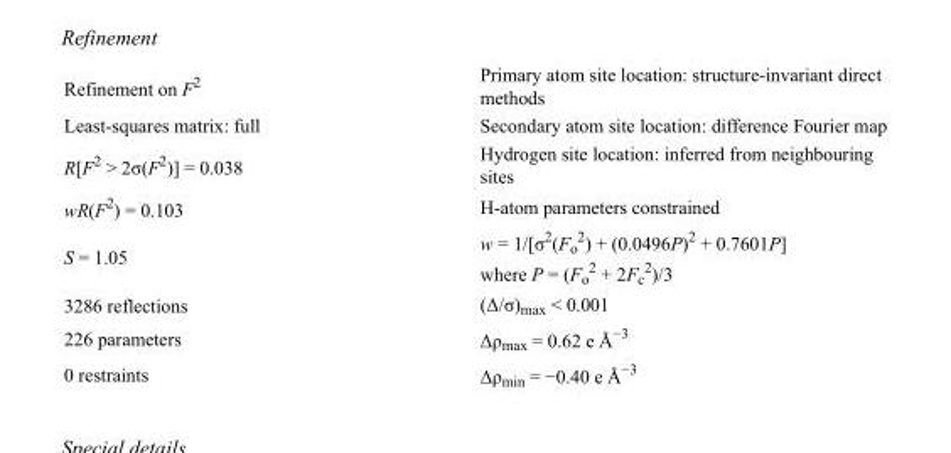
<table><tbody><tr><td>Refinement on F<sup>2</sup></td><td>Primary atom site location: structure-invariant direct methods</td></tr><tr><td>Least-squares matrix: full</td><td>Secondary atom site location: difference Fourier map</td></tr><tr><td>R[F<sup>2</sup> &gt; 2σ(F<sup>2</sup>)] = 0.038</td><td>Hydrogen site location: inferred from neighbouring sites</td></tr><tr><td>wR(F<sup>2</sup>) = 0.103</td><td>H-atom parameters constrained</td></tr><tr><td>S = 1.05</td><td>w = 1/[σ<sup>2</sup>(F<sub>o</sub> <sup>2</sup>) + (0.0496P)<sup>2</sup> + 0.7601P] where P = (F<sub>o</sub> <sup>2</sup> + 2F<sub>c</sub> <sup>2</sup>)/3</td></tr><tr><td>3286 reflections</td><td>(Δ/σ)<sub>max</sub> &lt; 0.001</td></tr><tr><td>226 parameters</td><td>Δρ<sub>max</sub> = 0.62 e Å<sup>−3</sup></td></tr><tr><td>0 restraints</td><td>Δρ<sub>min</sub> = −0.40 e Å<sup>−3</sup></td></tr></tbody></table>